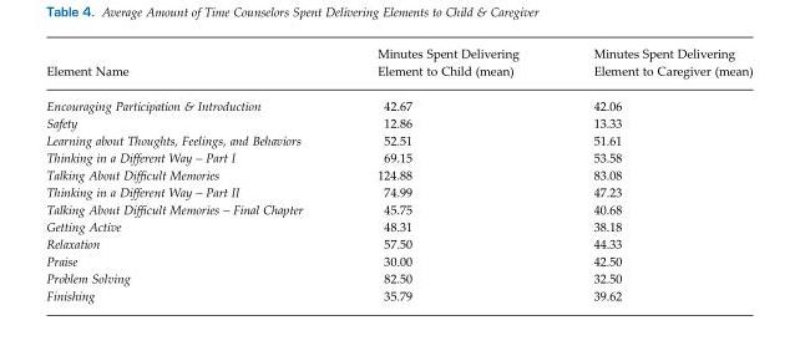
<table><thead><tr><td>Element Name</td><td>Minutes Spent Delivering Element to Child (mean)</td><td>Minutes Spent Delivering Element to Caregiver (mean)</td></tr></thead><tbody><tr><td>Encouraging Participation &amp; Introduction</td><td>42.67</td><td>42.06</td></tr><tr><td>Safety</td><td>12.86</td><td>13.33</td></tr><tr><td>Learning about Thoughts, Feelings, and Behaviors</td><td>52.51</td><td>51.61</td></tr><tr><td>Thinking in a Different Way – Part I</td><td>69.15</td><td>53.58</td></tr><tr><td>Talking About Difficult Memories</td><td>124.88</td><td>83.08</td></tr><tr><td>Thinking in a Different Way – Part II</td><td>74.99</td><td>47.23</td></tr><tr><td>Talking About Difficult Memories – Final Chapter</td><td>45.75</td><td>40.68</td></tr><tr><td>Getting Active</td><td>48.31</td><td>38.18</td></tr><tr><td>Relaxation</td><td>57.50</td><td>44.33</td></tr><tr><td>Praise</td><td>30.00</td><td>42.50</td></tr><tr><td>Problem Solving</td><td>82.50</td><td>32.50</td></tr><tr><td>Finishing</td><td>35.79</td><td>39.62</td></tr></tbody></table>